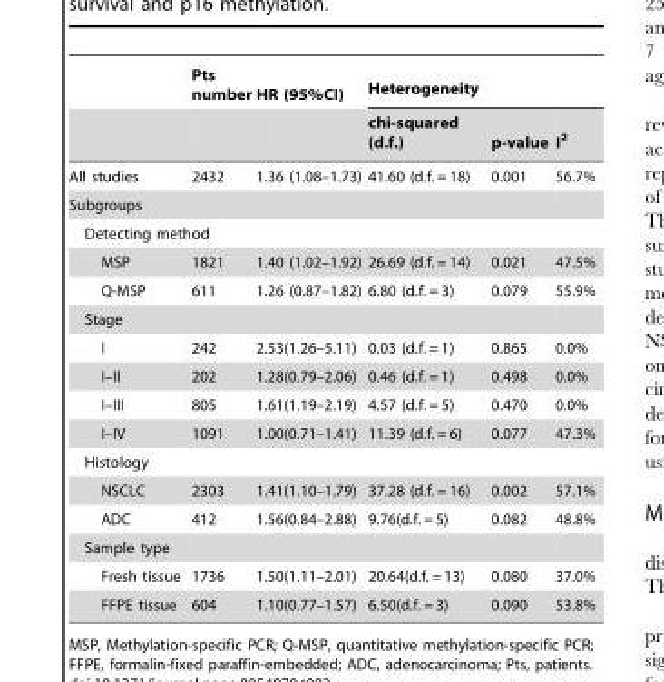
<table><thead><tr><td rowspan="2"></td><td rowspan="2">Pts number</td><td rowspan="2">HR (95%CI)</td><td colspan="3">Heterogeneity</td></tr><tr><td>chi-squared (d.f.)</td><td>p-value</td><td>I<sup>2</sup></td></tr></thead><tbody><tr><td>All studies</td><td>2432</td><td>1.36 (1.08–1.73)</td><td>41.60 (d.f. = 18)</td><td>0.001</td><td>56.7%</td></tr><tr><td colspan="6">Subgroups</td></tr><tr><td colspan="6">Detecting method</td></tr><tr><td>MSP</td><td>1821</td><td>1.40 (1.02–1.92)</td><td>26.69 (d.f. = 14)</td><td>0.021</td><td>47.5%</td></tr><tr><td>Q-MSP</td><td>611</td><td>1.26 (0.87–1.82)</td><td>6.80 (d.f. = 3)</td><td>0.079</td><td>55.9%</td></tr><tr><td colspan="6">Stage</td></tr><tr><td>I</td><td>242</td><td>2.53(1.26–5.11)</td><td>0.03 (d.f. = 1)</td><td>0.865</td><td>0.0%</td></tr><tr><td>I–II</td><td>202</td><td>1.28(0.79–2.06)</td><td>0.46 (d.f. = 1)</td><td>0.498</td><td>0.0%</td></tr><tr><td>I–III</td><td>805</td><td>1.61(1.19–2.19)</td><td>4.57 (d.f. = 5)</td><td>0.470</td><td>0.0%</td></tr><tr><td>I–IV</td><td>1091</td><td>1.00(0.71–1.41)</td><td>11.39 (d.f. = 6)</td><td>0.077</td><td>47.3%</td></tr><tr><td colspan="6">Histology</td></tr><tr><td>NSCLC</td><td>2303</td><td>1.41(1.10–1.79)</td><td>37.28 (d.f. = 16)</td><td>0.002</td><td>57.1%</td></tr><tr><td>ADC</td><td>412</td><td>1.56(0.84–2.88)</td><td>9.76(d.f. = 5)</td><td>0.082</td><td>48.8%</td></tr><tr><td colspan="6">Sample type</td></tr><tr><td>Fresh tissue</td><td>1736</td><td>1.50(1.11–2.01)</td><td>20.64(d.f. = 13)</td><td>0.080</td><td>37.0%</td></tr><tr><td>FFPE tissue</td><td>604</td><td>1.10(0.77–1.57)</td><td>6.50(d.f. = 3)</td><td>0.090</td><td>53.8%</td></tr></tbody></table>